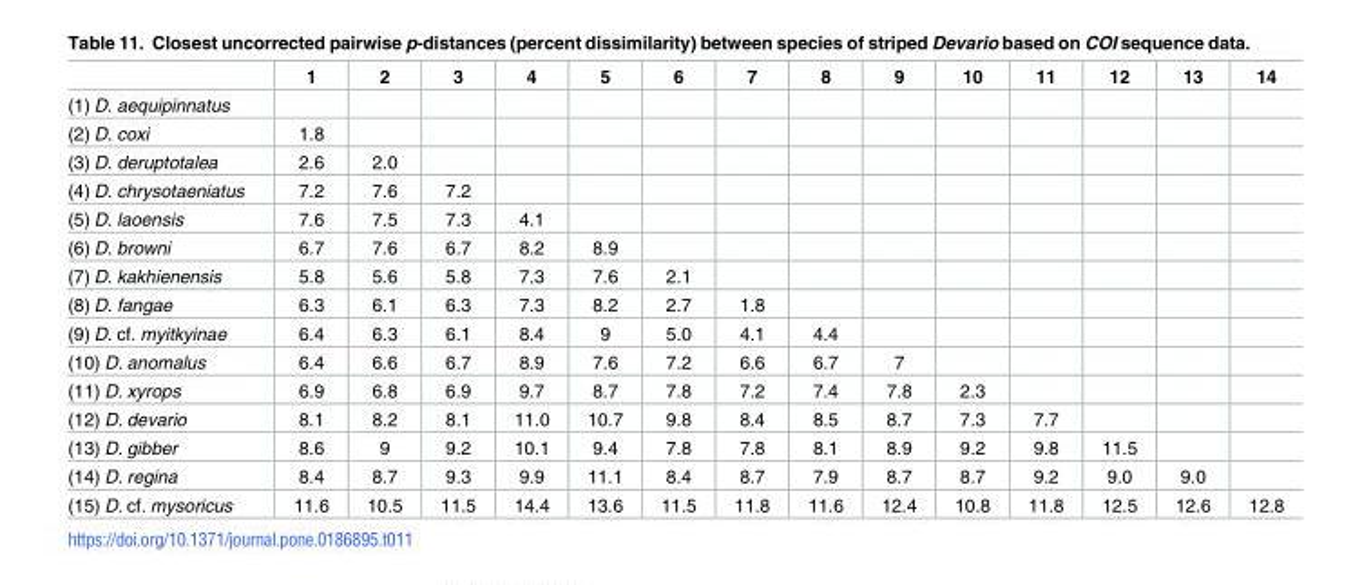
<table><thead><tr><td></td><td>1</td><td>2</td><td>3</td><td>4</td><td>5</td><td>6</td><td>7</td><td>8</td><td>9</td><td>10</td><td>11</td><td>12</td><td>13</td><td>14</td></tr></thead><tbody><tr><td colspan="15">(1) D. aequipinnatus</td></tr><tr><td>(2) D. coxi</td><td>1.8</td><td></td><td></td><td></td><td></td><td></td><td></td><td></td><td></td><td></td><td></td><td></td><td></td><td></td></tr><tr><td>(3) D. deruptotalea</td><td>2.6</td><td>2.0</td><td></td><td></td><td></td><td></td><td></td><td></td><td></td><td></td><td></td><td></td><td></td><td></td></tr><tr><td>(4) D. chrysotaeniatus</td><td>7.2</td><td>7.6</td><td>7.2</td><td></td><td></td><td></td><td></td><td></td><td></td><td></td><td></td><td></td><td></td><td></td></tr><tr><td>(5) D. laoensis</td><td>7.6</td><td>7.5</td><td>7.3</td><td>4.1</td><td></td><td></td><td></td><td></td><td></td><td></td><td></td><td></td><td></td><td></td></tr><tr><td>(6) D. browni</td><td>6.7</td><td>7.6</td><td>6.7</td><td>8.2</td><td>8.9</td><td></td><td></td><td></td><td></td><td></td><td></td><td></td><td></td><td></td></tr><tr><td>(7) D. kakhienensis</td><td>5.8</td><td>5.6</td><td>5.8</td><td>7.3</td><td>7.6</td><td>2.1</td><td></td><td></td><td></td><td></td><td></td><td></td><td></td><td></td></tr><tr><td>(8) D. fangae</td><td>6.3</td><td>6.1</td><td>6.3</td><td>7.3</td><td>8.2</td><td>2.7</td><td>1.8</td><td></td><td></td><td></td><td></td><td></td><td></td><td></td></tr><tr><td>(9) D. cf. myitkyinae</td><td>6.4</td><td>6.3</td><td>6.1</td><td>8.4</td><td>9</td><td>5.0</td><td>4.1</td><td>4.4</td><td></td><td></td><td></td><td></td><td></td><td></td></tr><tr><td>(10) D. anomalus</td><td>6.4</td><td>6.6</td><td>6.7</td><td>8.9</td><td>7.6</td><td>7.2</td><td>6.6</td><td>6.7</td><td>7</td><td></td><td></td><td></td><td></td><td></td></tr><tr><td>(11) D. xyrops</td><td>6.9</td><td>6.8</td><td>6.9</td><td>9.7</td><td>8.7</td><td>7.8</td><td>7.2</td><td>7.4</td><td>7.8</td><td>2.3</td><td></td><td></td><td></td><td></td></tr><tr><td>(12) D. devario</td><td>8.1</td><td>8.2</td><td>8.1</td><td>11.0</td><td>10.7</td><td>9.8</td><td>8.4</td><td>8.5</td><td>8.7</td><td>7.3</td><td>7.7</td><td></td><td></td><td></td></tr><tr><td>(13) D. gibber</td><td>8.6</td><td>9</td><td>9.2</td><td>10.1</td><td>9.4</td><td>7.8</td><td>7.8</td><td>8.1</td><td>8.9</td><td>9.2</td><td>9.8</td><td>11.5</td><td></td><td></td></tr><tr><td>(14) D. regina</td><td>8.4</td><td>8.7</td><td>9.3</td><td>9.9</td><td>11.1</td><td>8.4</td><td>8.7</td><td>7.9</td><td>8.7</td><td>8.7</td><td>9.2</td><td>9.0</td><td>9.0</td><td></td></tr><tr><td>(15) D. cf. mysoricus</td><td>11.6</td><td>10.5</td><td>11.5</td><td>14.4</td><td>13.6</td><td>11.5</td><td>11.8</td><td>11.6</td><td>12.4</td><td>10.8</td><td>11.8</td><td>12.5</td><td>12.6</td><td>12.8</td></tr></tbody></table>